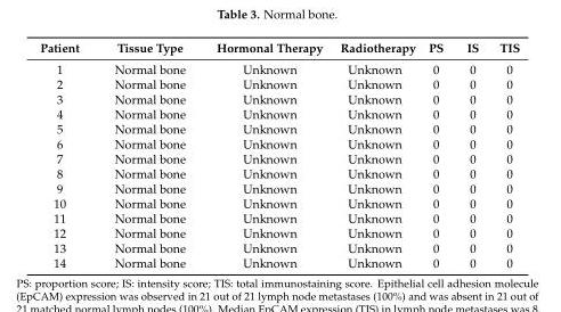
<table><thead><tr><td>Patient</td><td>Tissue Type</td><td>Hormonal Therapy</td><td>Radiotherapy</td><td>PS</td><td>IS</td><td>TIS</td></tr></thead><tbody><tr><td>1</td><td>Normal bone</td><td>Unknown</td><td>Unknown</td><td>0</td><td>0</td><td>0</td></tr><tr><td>2</td><td>Normal bone</td><td>Unknown</td><td>Unknown</td><td>0</td><td>0</td><td>0</td></tr><tr><td>3</td><td>Normal bone</td><td>Unknown</td><td>Unknown</td><td>0</td><td>0</td><td>0</td></tr><tr><td>4</td><td>Normal bone</td><td>Unknown</td><td>Unknown</td><td>0</td><td>0</td><td>0</td></tr><tr><td>5</td><td>Normal bone</td><td>Unknown</td><td>Unknown</td><td>0</td><td>0</td><td>0</td></tr><tr><td>6</td><td>Normal bone</td><td>Unknown</td><td>Unknown</td><td>0</td><td>0</td><td>0</td></tr><tr><td>7</td><td>Normal bone</td><td>Unknown</td><td>Unknown</td><td>0</td><td>0</td><td>0</td></tr><tr><td>8</td><td>Normal bone</td><td>Unknown</td><td>Unknown</td><td>0</td><td>0</td><td>0</td></tr><tr><td>9</td><td>Normal bone</td><td>Unknown</td><td>Unknown</td><td>0</td><td>0</td><td>0</td></tr><tr><td>10</td><td>Normal bone</td><td>Unknown</td><td>Unknown</td><td>0</td><td>0</td><td>0</td></tr><tr><td>11</td><td>Normal bone</td><td>Unknown</td><td>Unknown</td><td>0</td><td>0</td><td>0</td></tr><tr><td>12</td><td>Normal bone</td><td>Unknown</td><td>Unknown</td><td>0</td><td>0</td><td>0</td></tr><tr><td>13</td><td>Normal bone</td><td>Unknown</td><td>Unknown</td><td>0</td><td>0</td><td>0</td></tr><tr><td>14</td><td>Normal bone</td><td>Unknown</td><td>Unknown</td><td>0</td><td>0</td><td>0</td></tr></tbody></table>